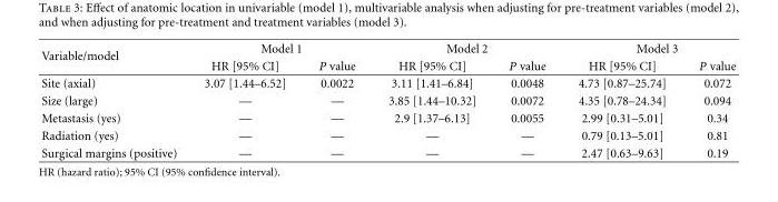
<table><thead><tr><td rowspan="2">Variable/model</td><td colspan="2">Model 1</td><td colspan="2">Model 2</td><td colspan="2">Model 3</td></tr><tr><td>HR [95% CI]</td><td>P value</td><td>HR [95% CI]</td><td>P value</td><td>HR [95% CI]</td><td>P value</td></tr></thead><tbody><tr><td>Site (axial)</td><td>3.07 [1.44–6.52]</td><td>0.0022</td><td>3.11 [1.41–6.84]</td><td>0.0048</td><td>4.73 [0.87–25.74]</td><td>0.072</td></tr><tr><td>Size (large)</td><td>—</td><td>—</td><td>3.85 [1.44–10.32]</td><td>0.0072</td><td>4.35 [0.78–24.34]</td><td>0.094</td></tr><tr><td>Metastasis (yes)</td><td>—</td><td>—</td><td>2.9 [1.37–6.13]</td><td>0.0055</td><td>2.99 [0.31–5.01]</td><td>0.34</td></tr><tr><td>Radiation (yes)</td><td>—</td><td>—</td><td>—</td><td>—</td><td>0.79 [0.13–5.01]</td><td>0.81</td></tr><tr><td>Surgical margins (positive)</td><td>—</td><td>—</td><td>—</td><td>—</td><td>2.47 [0.63–9.63]</td><td>0.19</td></tr></tbody></table>